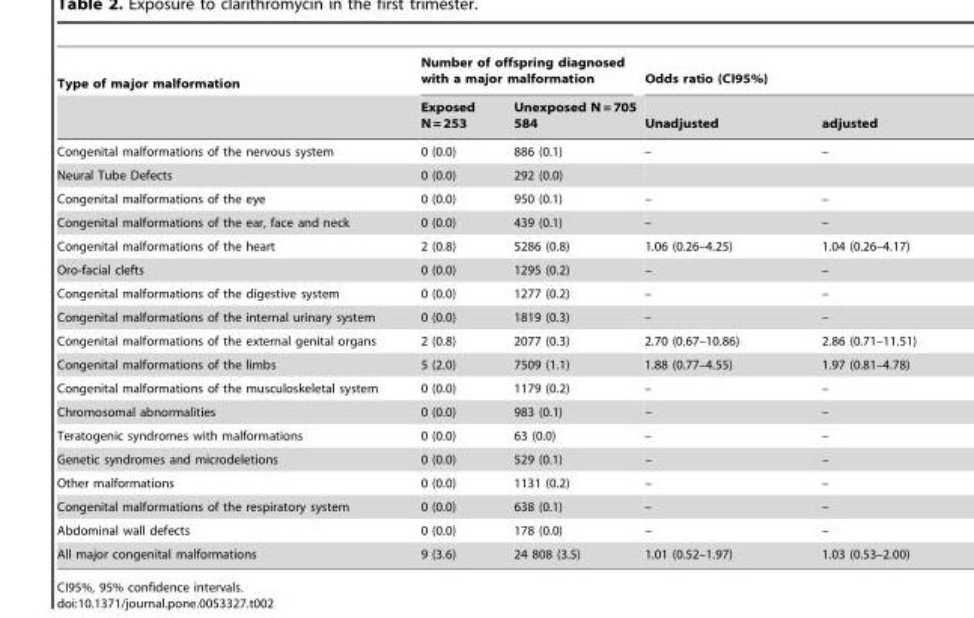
<table><thead><tr><td rowspan="2">Type of major malformation</td><td colspan="2">Number of offspring diagnosed with a major malformation</td><td colspan="2">Odds ratio (CI95%)</td></tr><tr><td>Exposed N = 253</td><td>Unexposed N = 705 584</td><td>Unadjusted</td><td>adjusted</td></tr></thead><tbody><tr><td>Congenital malformations of the nervous system</td><td>0 (0.0)</td><td>886 (0.1)</td><td>–</td><td>–</td></tr><tr><td>Neural Tube Defects</td><td>0 (0.0)</td><td>292 (0.0)</td><td></td><td></td></tr><tr><td>Congenital malformations of the eye</td><td>0 (0.0)</td><td>950 (0.1)</td><td>–</td><td>–</td></tr><tr><td>Congenital malformations of the ear, face and neck</td><td>0 (0.0)</td><td>439 (0.1)</td><td>–</td><td>–</td></tr><tr><td>Congenital malformations of the heart</td><td>2 (0.8)</td><td>5286 (0.8)</td><td>1.06 (0.26–4.25)</td><td>1.04 (0.26–4.17)</td></tr><tr><td>Oro-facial clefts</td><td>0 (0.0)</td><td>1295 (0.2)</td><td>–</td><td>–</td></tr><tr><td>Congenital malformations of the digestive system</td><td>0 (0.0)</td><td>1277 (0.2)</td><td>–</td><td>–</td></tr><tr><td>Congenital malformations of the internal urinary system</td><td>0 (0.0)</td><td>1819 (0.3)</td><td>–</td><td>–</td></tr><tr><td>Congenital malformations of the external genital organs</td><td>2 (0.8)</td><td>2077 (0.3)</td><td>2.70 (0.67–10.86)</td><td>2.86 (0.71–11.51)</td></tr><tr><td>Congenital malformations of the limbs</td><td>5 (2.0)</td><td>7509 (1.1)</td><td>1.88 (0.77–4.55)</td><td>1.97 (0.81–4.78)</td></tr><tr><td>Congenital malformations of the musculoskeletal system</td><td>0 (0.0)</td><td>1179 (0.2)</td><td>–</td><td>–</td></tr><tr><td>Chromosomal abnormalities</td><td>0 (0.0)</td><td>983 (0.1)</td><td>–</td><td>–</td></tr><tr><td>Teratogenic syndromes with malformations</td><td>0 (0.0)</td><td>63 (0.0)</td><td>–</td><td>–</td></tr><tr><td>Genetic syndromes and microdeletions</td><td>0 (0.0)</td><td>529 (0.1)</td><td>–</td><td>–</td></tr><tr><td>Other malformations</td><td>0 (0.0)</td><td>1131 (0.2)</td><td>–</td><td>–</td></tr><tr><td>Congenital malformations of the respiratory system</td><td>0 (0.0)</td><td>638 (0.1)</td><td>–</td><td>–</td></tr><tr><td>Abdominal wall defects</td><td>0 (0.0)</td><td>178 (0.0)</td><td>–</td><td>–</td></tr><tr><td>All major congenital malformations</td><td>9 (3.6)</td><td>24 808 (3.5)</td><td>1.01 (0.52–1.97)</td><td>1.03 (0.53–2.00)</td></tr></tbody></table>